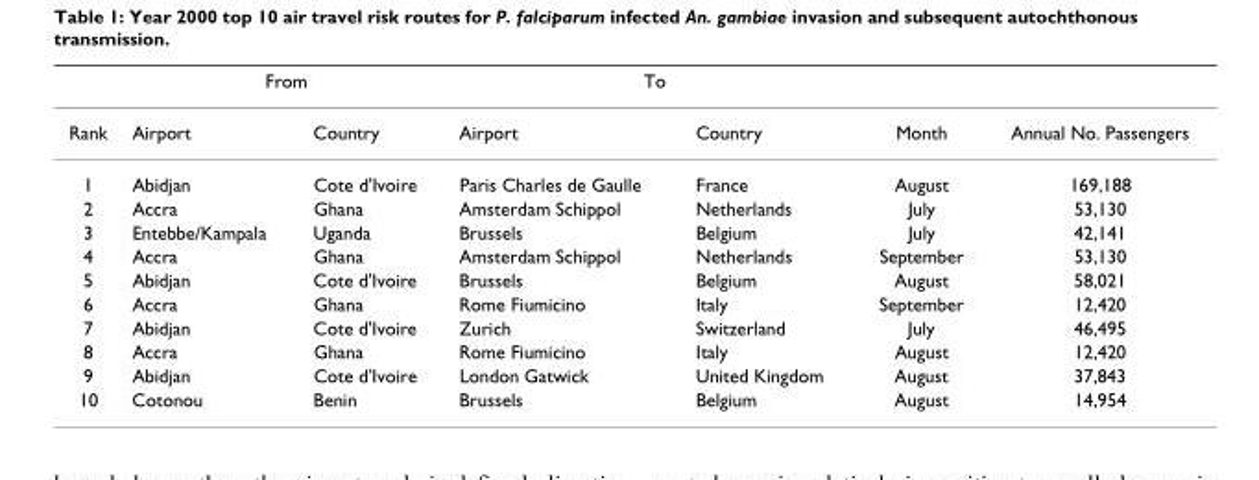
<table><thead><tr><td rowspan="2">Rank</td><td colspan="2">From</td><td colspan="2">To</td><td rowspan="2">Month</td><td rowspan="2">Annual No. Passengers</td></tr><tr><td>Airport</td><td>Country</td><td>Airport</td><td>Country</td></tr></thead><tbody><tr><td>1</td><td>Abidjan</td><td>Cote d&#x27;Ivoire</td><td>Paris Charles de Gaulle</td><td>France</td><td>August</td><td>169,188</td></tr><tr><td>2</td><td>Accra</td><td>Ghana</td><td>Amsterdam Schippol</td><td>Netherlands</td><td>July</td><td>53,130</td></tr><tr><td>3</td><td>Entebbe/Kampala</td><td>Uganda</td><td>Brussels</td><td>Belgium</td><td>July</td><td>42,141</td></tr><tr><td>4</td><td>Accra</td><td>Ghana</td><td>Amsterdam Schippol</td><td>Netherlands</td><td>September</td><td>53,130</td></tr><tr><td>5</td><td>Abidjan</td><td>Cote d&#x27;Ivoire</td><td>Brussels</td><td>Belgium</td><td>August</td><td>58,021</td></tr><tr><td>6</td><td>Accra</td><td>Ghana</td><td>Rome Fiumicino</td><td>Italy</td><td>September</td><td>12,420</td></tr><tr><td>7</td><td>Abidjan</td><td>Cote d&#x27;Ivoire</td><td>Zurich</td><td>Switzerland</td><td>July</td><td>46,495</td></tr><tr><td>8</td><td>Accra</td><td>Ghana</td><td>Rome Fiumicino</td><td>Italy</td><td>August</td><td>12,420</td></tr><tr><td>9</td><td>Abidjan</td><td>Cote d&#x27;Ivoire</td><td>London Gatwick</td><td>United Kingdom</td><td>August</td><td>37,843</td></tr><tr><td>10</td><td>Cotonou</td><td>Benin</td><td>Brussels</td><td>Belgium</td><td>August</td><td>14,954</td></tr></tbody></table>